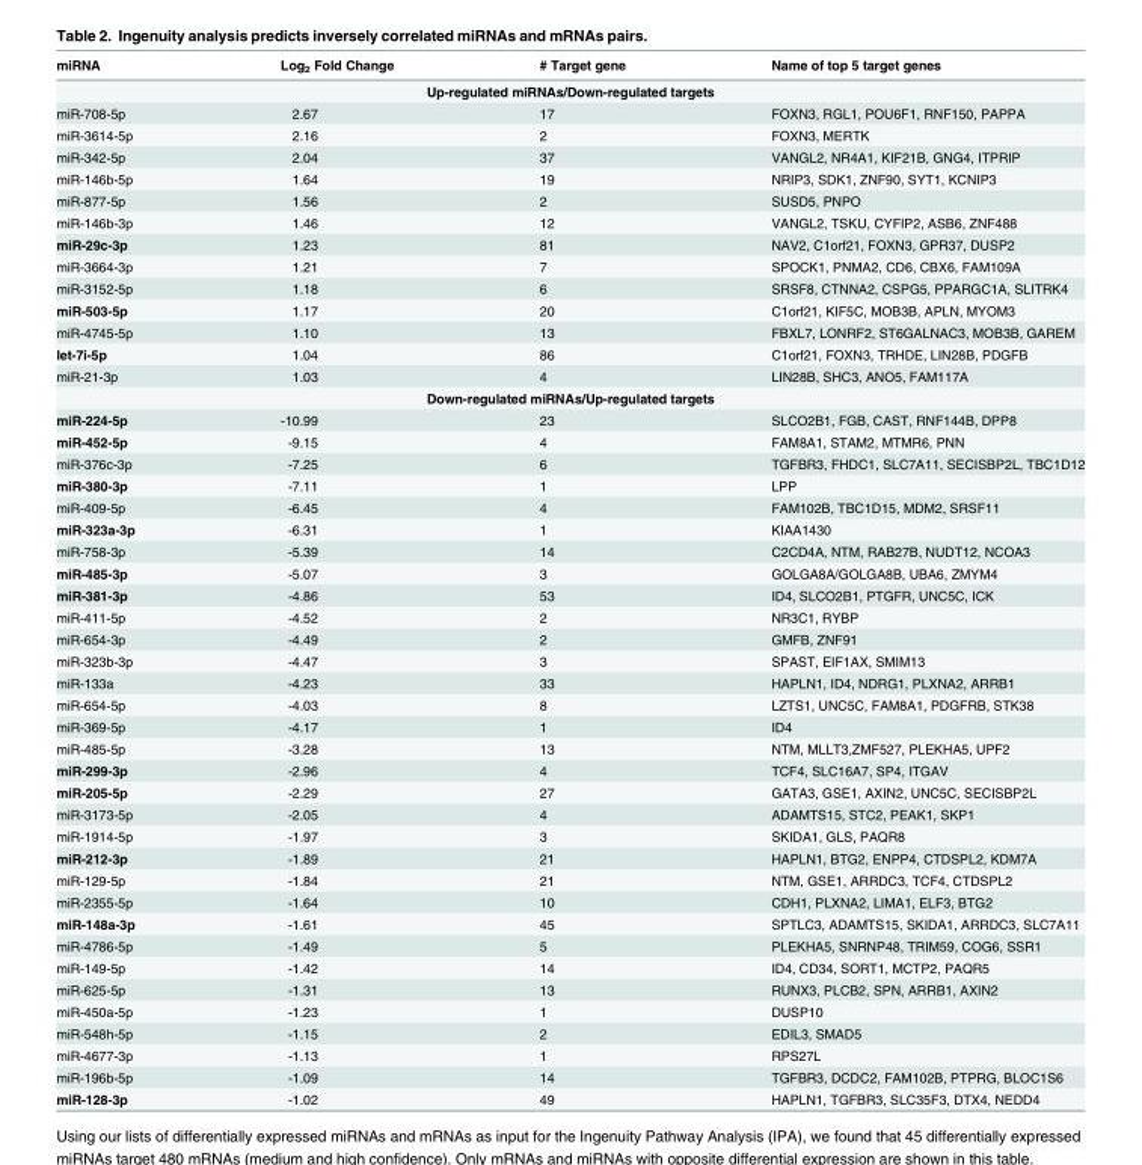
<table><thead><tr><td>miRNA</td><td>Log<sub>2</sub> Fold Change</td><td># Target gene</td><td>Name of top 5 target genes</td></tr></thead><tbody><tr><td colspan="4">Up-regulated miRNAs/Down-regulated targets</td></tr><tr><td>miR-708-5p</td><td>2.67</td><td>17</td><td>FOXN3, RGL1, POU6F1, RNF150, PAPPA</td></tr><tr><td>miR-3614-5p</td><td>2.16</td><td>2</td><td>FOXN3, MERTK</td></tr><tr><td>miR-342-5p</td><td>2.04</td><td>37</td><td>VANGL2, NR4A1, KIF21B, GNG4, ITPRIP</td></tr><tr><td>miR-146b-5p</td><td>1.64</td><td>19</td><td>NRIP3, SDK1, ZNF90, SYT1, KCNIP3</td></tr><tr><td>miR-877-5p</td><td>1.56</td><td>2</td><td>SUSD5, PNPO</td></tr><tr><td>miR-146b-3p</td><td>1.46</td><td>12</td><td>VANGL2, TSKU, CYFIP2, ASB6, ZNF488</td></tr><tr><td>miR-29c-3p</td><td>1.23</td><td>81</td><td>NAV2, C1orf21, FOXN3, GPR37, DUSP2</td></tr><tr><td>miR-3664-3p</td><td>1.21</td><td>7</td><td>SPOCK1, PNMA2, CD6, CBX6, FAM109A</td></tr><tr><td>miR-3152-5p</td><td>1.18</td><td>6</td><td>SRSF8, CTNNA2, CSPG5, PPARGC1A, SLITRK4</td></tr><tr><td>miR-503-5p</td><td>1.17</td><td>20</td><td>C1orf21, KIF5C, MOB3B, APLN, MYOM3</td></tr><tr><td>miR-4745-5p</td><td>1.10</td><td>13</td><td>FBXL7, LONRF2, ST6GALNAC3, MOB3B, GAREM</td></tr><tr><td>let-7i-5p</td><td>1.04</td><td>86</td><td>C1orf21, FOXN3, TRHDE, LIN28B, PDGFB</td></tr><tr><td>miR-21-3p</td><td>1.03</td><td>4</td><td>LIN28B, SHC3, ANO5, FAM117A</td></tr><tr><td colspan="4">Down-regulated miRNAs/Up-regulated targets</td></tr><tr><td>miR-224-5p</td><td>-10.99</td><td>23</td><td>SLCO2B1, FGB, CAST, RNF144B, DPP8</td></tr><tr><td>miR-452-5p</td><td>-9.15</td><td>4</td><td>FAM8A1, STAM2, MTMR6, PNN</td></tr><tr><td>miR-376c-3p</td><td>-7.25</td><td>6</td><td>TGFBR3, FHDC1, SLC7A11, SECISBP2L, TBC1D12</td></tr><tr><td>miR-380-3p</td><td>-7.11</td><td>1</td><td>LPP</td></tr><tr><td>miR-409-5p</td><td>-6.45</td><td>4</td><td>FAM102B, TBC1D15, MDM2, SRSF11</td></tr><tr><td>miR-323a-3p</td><td>-6.31</td><td>1</td><td>KIAA1430</td></tr><tr><td>miR-758-3p</td><td>-5.39</td><td>14</td><td>C2CD4A, NTM, RAB27B, NUDT12, NCOA3</td></tr><tr><td>miR-485-3p</td><td>-5.07</td><td>3</td><td>GOLGA8A/GOLGA8B, UBA6, ZMYM4</td></tr><tr><td>miR-381-3p</td><td>-4.86</td><td>53</td><td>ID4, SLCO2B1, PTGFR, UNC5C, ICK</td></tr><tr><td>miR-411-5p</td><td>-4.52</td><td>2</td><td>NR3C1, RYBP</td></tr><tr><td>miR-654-3p</td><td>-4.49</td><td>2</td><td>GMFB, ZNF91</td></tr><tr><td>miR-323b-3p</td><td>-4.47</td><td>3</td><td>SPAST, EIF1AX, SMIM13</td></tr><tr><td>miR-133a</td><td>-4.23</td><td>33</td><td>HAPLN1, ID4, NDRG1, PLXNA2, ARRB1</td></tr><tr><td>miR-654-5p</td><td>-4.03</td><td>8</td><td>LZTS1, UNC5C, FAM8A1, PDGFRB, STK38</td></tr><tr><td>miR-369-5p</td><td>-4.17</td><td>1</td><td>ID4</td></tr><tr><td>miR-485-5p</td><td>-3.28</td><td>13</td><td>NTM, MLLT3,ZMF527, PLEKHA5, UPF2</td></tr><tr><td>miR-299-3p</td><td>-2.96</td><td>4</td><td>TCF4, SLC16A7, SP4, ITGAV</td></tr><tr><td>miR-205-5p</td><td>-2.29</td><td>27</td><td>GATA3, GSE1, AXIN2, UNC5C, SECISBP2L</td></tr><tr><td>miR-3173-5p</td><td>-2.05</td><td>4</td><td>ADAMTS15, STC2, PEAK1, SKP1</td></tr><tr><td>miR-1914-5p</td><td>-1.97</td><td>3</td><td>SKIDA1, GLS, PAQR8</td></tr><tr><td>miR-212-3p</td><td>-1.89</td><td>21</td><td>HAPLN1, BTG2, ENPP4, CTDSPL2, KDM7A</td></tr><tr><td>miR-129-5p</td><td>-1.84</td><td>21</td><td>NTM, GSE1, ARRDC3, TCF4, CTDSPL2</td></tr><tr><td>miR-2355-5p</td><td>-1.64</td><td>10</td><td>CDH1, PLXNA2, LIMA1, ELF3, BTG2</td></tr><tr><td>miR-148a-3p</td><td>-1.61</td><td>45</td><td>SPTLC3, ADAMTS15, SKIDA1, ARRDC3, SLC7A11</td></tr><tr><td>miR-4786-5p</td><td>-1.49</td><td>5</td><td>PLEKHA5, SNRNP48, TRIM59, COG6, SSR1</td></tr><tr><td>miR-149-5p</td><td>-1.42</td><td>14</td><td>ID4, CD34, SORT1, MCTP2, PAQR5</td></tr><tr><td>miR-625-5p</td><td>-1.31</td><td>13</td><td>RUNX3, PLCB2, SPN, ARRB1, AXIN2</td></tr><tr><td>miR-450a-5p</td><td>-1.23</td><td>1</td><td>DUSP10</td></tr><tr><td>miR-548h-5p</td><td>-1.15</td><td>2</td><td>EDIL3, SMAD5</td></tr><tr><td>miR-4677-3p</td><td>-1.13</td><td>1</td><td>RPS27L</td></tr><tr><td>miR-196b-5p</td><td>-1.09</td><td>14</td><td>TGFBR3, DCDC2, FAM102B, PTPRG, BLOC1S6</td></tr><tr><td>miR-128-3p</td><td>-1.02</td><td>49</td><td>HAPLN1, TGFBR3, SLC35F3, DTX4, NEDD4</td></tr></tbody></table>